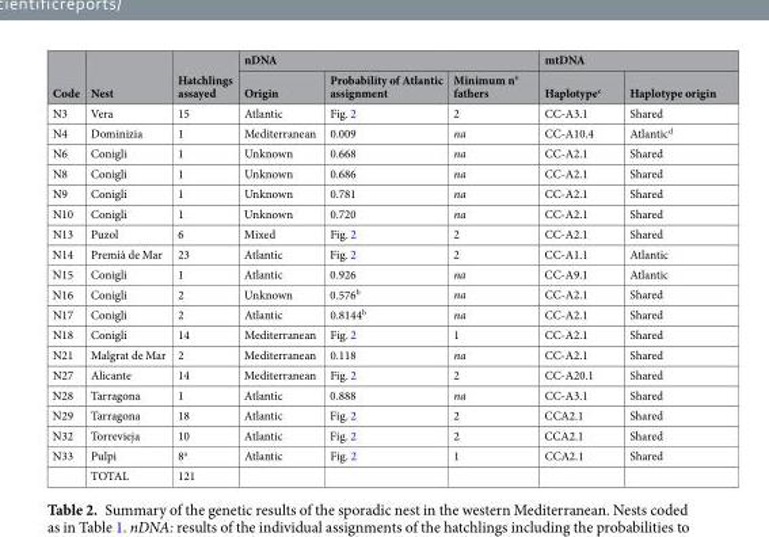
<table><thead><tr><td rowspan="2">Code</td><td rowspan="2">Nest</td><td rowspan="2">Hatchlings assayed</td><td colspan="3">nDNA</td><td colspan="2">mtDNA</td></tr><tr><td>Origin</td><td>Probability of Atlantic assignment</td><td>Minimum n° fathers</td><td>Haplotype<sup>c</sup></td><td>Haplotype origin</td></tr></thead><tbody><tr><td>N3</td><td>Vera</td><td>15</td><td>Atlantic</td><td>Fig. 2</td><td>2</td><td>CC-A3.1</td><td>Shared</td></tr><tr><td>N4</td><td>Dominizia</td><td>1</td><td>Mediterranean</td><td>0.009</td><td>na</td><td>CC-A10.4</td><td>Atlantic<sup>d</sup></td></tr><tr><td>N6</td><td>Conigli</td><td>1</td><td>Unknown</td><td>0.668</td><td>na</td><td>CC-A2.1</td><td>Shared</td></tr><tr><td>N8</td><td>Conigli</td><td>1</td><td>Unknown</td><td>0.686</td><td>na</td><td>CC-A2.1</td><td>Shared</td></tr><tr><td>N9</td><td>Conigli</td><td>1</td><td>Unknown</td><td>0.781</td><td>na</td><td>CC-A2.1</td><td>Shared</td></tr><tr><td>N10</td><td>Conigli</td><td>1</td><td>Unknown</td><td>0.720</td><td>na</td><td>CC-A2.1</td><td>Shared</td></tr><tr><td>N13</td><td>Puzol</td><td>6</td><td>Mixed</td><td>Fig. 2</td><td>2</td><td>CC-A2.1</td><td>Shared</td></tr><tr><td>N14</td><td>Premià de Mar</td><td>23</td><td>Atlantic</td><td>Fig. 2</td><td>2</td><td>CC-A1.1</td><td>Atlantic</td></tr><tr><td>N15</td><td>Conigli</td><td>1</td><td>Atlantic</td><td>0.926</td><td>na</td><td>CC-A9.1</td><td>Atlantic</td></tr><tr><td>N16</td><td>Conigli</td><td>2</td><td>Unknown</td><td>0.576<sup>b</sup></td><td>na</td><td>CC-A2.1</td><td>Shared</td></tr><tr><td>N17</td><td>Conigli</td><td>2</td><td>Atlantic</td><td>0.8144<sup>b</sup></td><td>na</td><td>CC-A2.1</td><td>Shared</td></tr><tr><td>N18</td><td>Conigli</td><td>14</td><td>Mediterranean</td><td>Fig. 2</td><td>1</td><td>CC-A2.1</td><td>Shared</td></tr><tr><td>N21</td><td>Malgrat de Mar</td><td>2</td><td>Mediterranean</td><td>0.118</td><td>na</td><td>CC-A2.1</td><td>Shared</td></tr><tr><td>N27</td><td>Alicante</td><td>14</td><td>Mediterranean</td><td>Fig. 2</td><td>2</td><td>CC-A20.1</td><td>Shared</td></tr><tr><td>N28</td><td>Tarragona</td><td>1</td><td>Atlantic</td><td>0.888</td><td>na</td><td>CC-A3.1</td><td>Shared</td></tr><tr><td>N29</td><td>Tarragona</td><td>18</td><td>Atlantic</td><td>Fig. 2</td><td>2</td><td>CCA2.1</td><td>Shared</td></tr><tr><td>N32</td><td>Torrevieja</td><td>10</td><td>Atlantic</td><td>Fig. 2</td><td>2</td><td>CCA2.1</td><td>Shared</td></tr><tr><td rowspan="2">N33</td><td>Pulpi</td><td>8<sup>a</sup></td><td>Atlantic</td><td>Fig. 2</td><td>1</td><td>CCA2.1</td><td>Shared</td></tr><tr><td>TOTAL</td><td>121</td><td></td><td></td><td></td><td></td><td></td></tr></tbody></table>